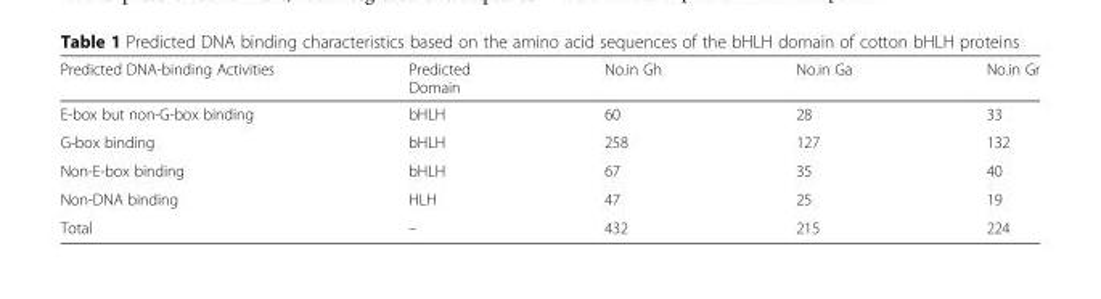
<table><thead><tr><td>Predicted DNA-binding Activities</td><td>Predicted Domain</td><td>No.in Gh</td><td>No.in Ga</td><td>No.in Gr</td></tr></thead><tbody><tr><td>E-box but non-G-box binding</td><td>bHLH</td><td>60</td><td>28</td><td>33</td></tr><tr><td>G-box binding</td><td>bHLH</td><td>258</td><td>127</td><td>132</td></tr><tr><td>Non-E-box binding</td><td>bHLH</td><td>67</td><td>35</td><td>40</td></tr><tr><td>Non-DNA binding</td><td>HLH</td><td>47</td><td>25</td><td>19</td></tr><tr><td>Total</td><td>–</td><td>432</td><td>215</td><td>224</td></tr></tbody></table>